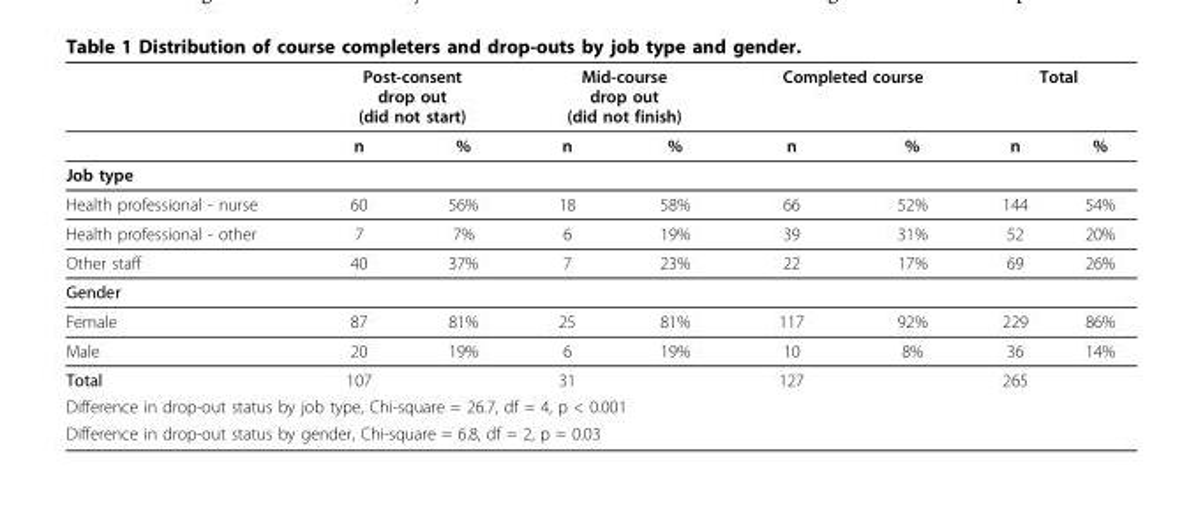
<table><thead><tr><td rowspan="2"></td><td colspan="2">Post-consent drop out (did not start)</td><td colspan="2">Mid-course drop out (did not finish)</td><td colspan="2">Completed course</td><td colspan="2">Total</td></tr><tr><td>n</td><td>%</td><td>n</td><td>%</td><td>n</td><td>%</td><td>n</td><td>%</td></tr></thead><tbody><tr><td colspan="9">Job type</td></tr><tr><td>Health professional - nurse</td><td>60</td><td>56%</td><td>18</td><td>58%</td><td>66</td><td>52%</td><td>144</td><td>54%</td></tr><tr><td>Health professional - other</td><td>7</td><td>7%</td><td>6</td><td>19%</td><td>39</td><td>31%</td><td>52</td><td>20%</td></tr><tr><td>Other staff</td><td>40</td><td>37%</td><td>7</td><td>23%</td><td>22</td><td>17%</td><td>69</td><td>26%</td></tr><tr><td colspan="9">Gender</td></tr><tr><td>Female</td><td>87</td><td>81%</td><td>25</td><td>81%</td><td>117</td><td>92%</td><td>229</td><td>86%</td></tr><tr><td>Male</td><td>20</td><td>19%</td><td>6</td><td>19%</td><td>10</td><td>8%</td><td>36</td><td>14%</td></tr><tr><td>Total</td><td>107</td><td></td><td>31</td><td></td><td>127</td><td></td><td>265</td><td></td></tr><tr><td colspan="9">Difference in drop-out status by job type, Chi-square = 26.7, df = 4, p &lt; 0.001</td></tr><tr><td colspan="9">Difference in drop-out status by gender, Chi-square = 6.8, df = 2, p = 0.03</td></tr></tbody></table>